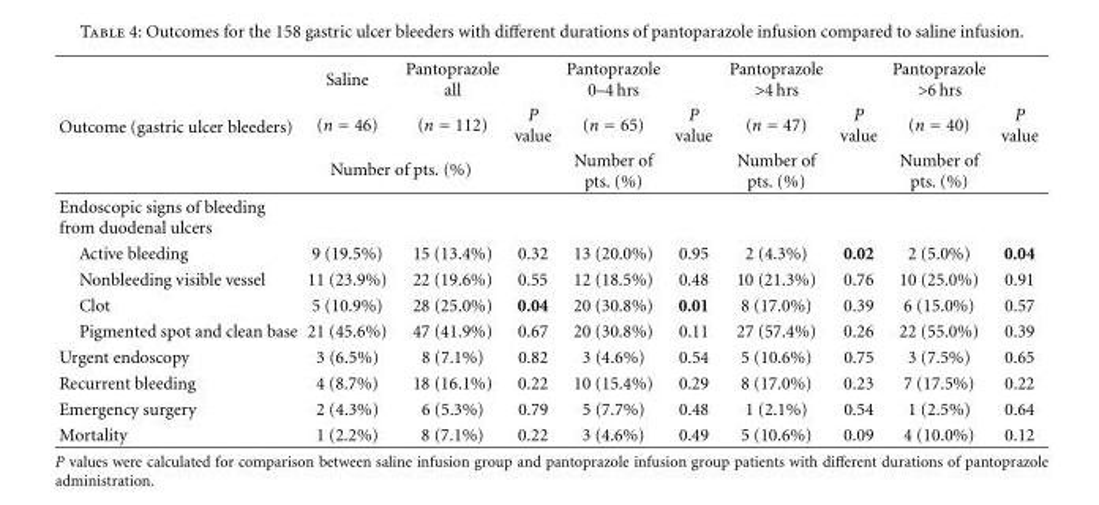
<table><thead><tr><td rowspan="3">Outcome (gastric ulcer bleeders)</td><td rowspan="2">Saline (n = 46)</td><td rowspan="2">Pantoprazole all (n = 112)</td><td rowspan="3">P value</td><td rowspan="3">Pantoprazole 0–4 hrs (n = 65) Number of pts. (%)</td><td rowspan="3">P value</td><td rowspan="3">Pantoprazole &gt;4 hrs (n = 47) Number of pts. (%)</td><td rowspan="3">P value</td><td rowspan="3">Pantoprazole &gt;6 hrs (n = 40) Number of pts. (%)</td><td rowspan="3">P value</td></tr><tr></tr><tr><td colspan="2">Number of pts. (%)</td></tr></thead><tbody><tr><td colspan="10">Endoscopic signs of bleeding from duodenal ulcers</td></tr><tr><td>Active bleeding</td><td>9 (19.5%)</td><td>15 (13.4%)</td><td>0.32</td><td>13 (20.0%)</td><td>0.95</td><td>2 (4.3%)</td><td>0.02</td><td>2 (5.0%)</td><td>0.04</td></tr><tr><td>Nonbleeding visible vessel</td><td>11 (23.9%)</td><td>22 (19.6%)</td><td>0.55</td><td>12 (18.5%)</td><td>0.48</td><td>10 (21.3%)</td><td>0.76</td><td>10 (25.0%)</td><td>0.91</td></tr><tr><td>Clot</td><td>5 (10.9%)</td><td>28 (25.0%)</td><td>0.04</td><td>20 (30.8%)</td><td>0.01</td><td>8 (17.0%)</td><td>0.39</td><td>6 (15.0%)</td><td>0.57</td></tr><tr><td>Pigmented spot and clean base</td><td>21 (45.6%)</td><td>47 (41.9%)</td><td>0.67</td><td>20 (30.8%)</td><td>0.11</td><td>27 (57.4%)</td><td>0.26</td><td>22 (55.0%)</td><td>0.39</td></tr><tr><td>Urgent endoscopy</td><td>3 (6.5%)</td><td>8 (7.1%)</td><td>0.82</td><td>3 (4.6%)</td><td>0.54</td><td>5 (10.6%)</td><td>0.75</td><td>3 (7.5%)</td><td>0.65</td></tr><tr><td>Recurrent bleeding</td><td>4 (8.7%)</td><td>18 (16.1%)</td><td>0.22</td><td>10 (15.4%)</td><td>0.29</td><td>8 (17.0%)</td><td>0.23</td><td>7 (17.5%)</td><td>0.22</td></tr><tr><td>Emergency surgery</td><td>2 (4.3%)</td><td>6 (5.3%)</td><td>0.79</td><td>5 (7.7%)</td><td>0.48</td><td>1 (2.1%)</td><td>0.54</td><td>1 (2.5%)</td><td>0.64</td></tr><tr><td>Mortality</td><td>1 (2.2%)</td><td>8 (7.1%)</td><td>0.22</td><td>3 (4.6%)</td><td>0.49</td><td>5 (10.6%)</td><td>0.09</td><td>4 (10.0%)</td><td>0.12</td></tr></tbody></table>